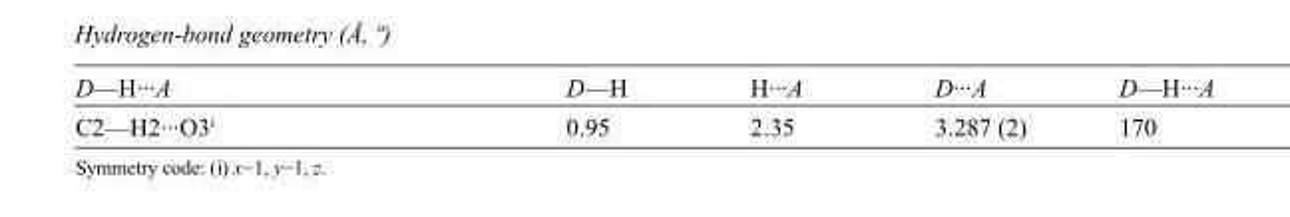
<table><tbody><tr><td>D—H···A</td><td>D—H</td><td>H···A</td><td>D···A</td><td>D—H···A</td></tr><tr><td>C2—H2···O3<sup>i</sup></td><td>0.95</td><td>2.35</td><td>3.287 (2)</td><td>170</td></tr></tbody></table>